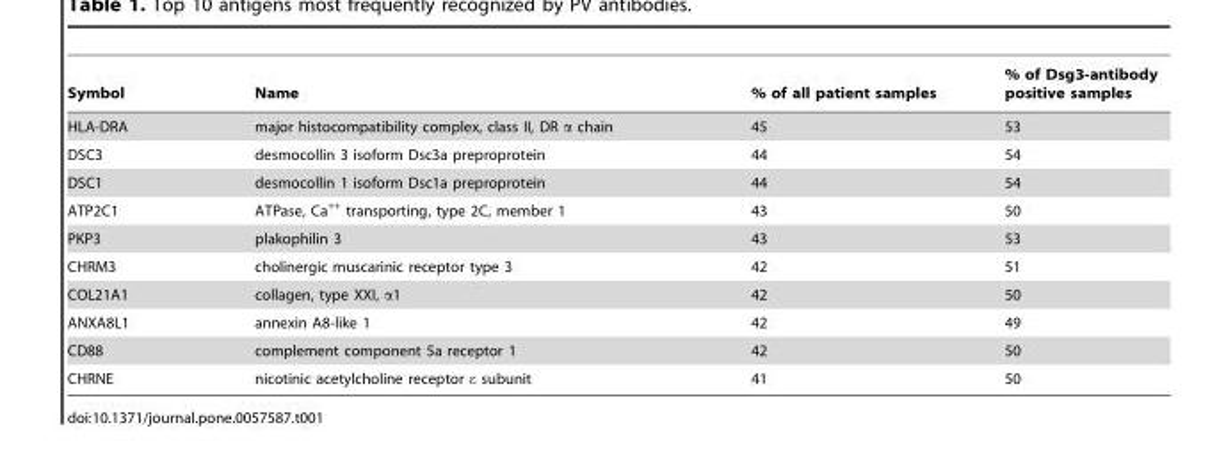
<table><thead><tr><td>Symbol</td><td>Name</td><td>% of all patient samples</td><td>% of Dsg3-antibody positive samples</td></tr></thead><tbody><tr><td>HLA-DRA</td><td>major histocompatibility complex, class II, DR α chain</td><td>45</td><td>53</td></tr><tr><td>DSC3</td><td>desmocollin 3 isoform Dsc3a preproprotein</td><td>44</td><td>54</td></tr><tr><td>DSC1</td><td>desmocollin 1 isoform Dsc1a preproprotein</td><td>44</td><td>54</td></tr><tr><td>ATP2C1</td><td>ATPase, Ca<sup>++</sup> transporting, type 2C, member 1</td><td>43</td><td>50</td></tr><tr><td>PKP3</td><td>plakophilin 3</td><td>43</td><td>53</td></tr><tr><td>CHRM3</td><td>cholinergic muscarinic receptor type 3</td><td>42</td><td>51</td></tr><tr><td>COL21A1</td><td>collagen, type XXI, α1</td><td>42</td><td>50</td></tr><tr><td>ANXA8L1</td><td>annexin A8-like 1</td><td>42</td><td>49</td></tr><tr><td>CD88</td><td>complement component 5a receptor 1</td><td>42</td><td>50</td></tr><tr><td>CHRNE</td><td>nicotinic acetylcholine receptor ε subunit</td><td>41</td><td>50</td></tr></tbody></table>